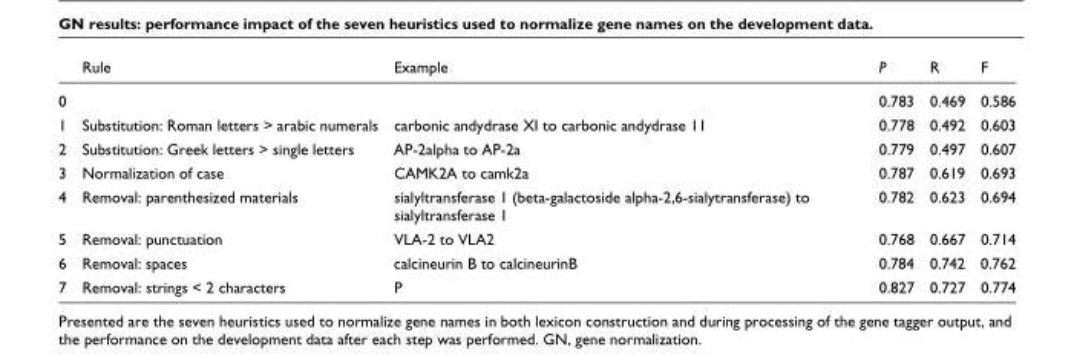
<table><thead><tr><td></td><td>Rule</td><td>Example</td><td>P</td><td>R</td><td>F</td></tr></thead><tbody><tr><td>0</td><td></td><td></td><td>0.783</td><td>0.469</td><td>0.586</td></tr><tr><td>1</td><td>Substitution: Roman letters &gt; arabic numerals</td><td>carbonic andydrase XI to carbonic andydrase 11</td><td>0.778</td><td>0.492</td><td>0.603</td></tr><tr><td>2</td><td>Substitution: Greek letters &gt; single letters</td><td>AP-2alpha to AP-2a</td><td>0.779</td><td>0.497</td><td>0.607</td></tr><tr><td>3</td><td>Normalization of case</td><td>CAMK2A to camk2a</td><td>0.787</td><td>0.619</td><td>0.693</td></tr><tr><td>4</td><td>Removal: parenthesized materials</td><td>sialyltransferase 1 (beta-galactoside alpha-2,6-sialytransferase) to sialyltransferase 1</td><td>0.782</td><td>0.623</td><td>0.694</td></tr><tr><td>5</td><td>Removal: punctuation</td><td>VLA-2 to VLA2</td><td>0.768</td><td>0.667</td><td>0.714</td></tr><tr><td>6</td><td>Removal: spaces</td><td>calcineurin B to calcineurinB</td><td>0.784</td><td>0.742</td><td>0.762</td></tr><tr><td>7</td><td>Removal: strings &lt; 2 characters</td><td>P</td><td>0.827</td><td>0.727</td><td>0.774</td></tr></tbody></table>